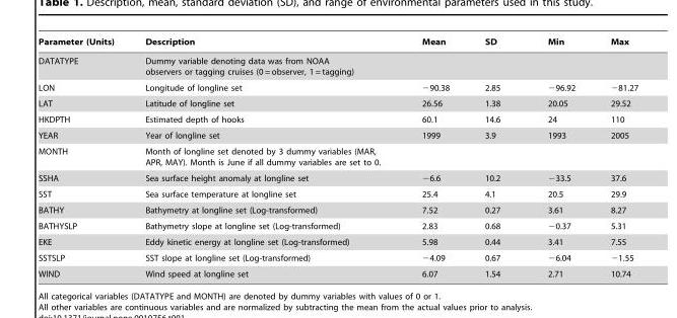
<table><thead><tr><td>Parameter (Units)</td><td>Description</td><td>Mean</td><td>SD</td><td>Min</td><td>Max</td></tr></thead><tbody><tr><td>DATATYPE</td><td>Dummy variable denoting data was from NOAA observers or tagging cruises (0 = observer, 1 = tagging)</td><td></td><td></td><td></td><td></td></tr><tr><td>LON</td><td>Longitude of longline set</td><td>−90.38</td><td>2.85</td><td>−96.92</td><td>−81.27</td></tr><tr><td>LAT</td><td>Latitude of longline set</td><td>26.56</td><td>1.38</td><td>20.05</td><td>29.52</td></tr><tr><td>HKDPTH</td><td>Estimated depth of hooks</td><td>60.1</td><td>14.6</td><td>24</td><td>110</td></tr><tr><td>YEAR</td><td>Year of longline set</td><td>1999</td><td>3.9</td><td>1993</td><td>2005</td></tr><tr><td>MONTH</td><td>Month of longline set denoted by 3 dummy variables (MAR, APR, MAY). Month is June if all dummy variables are set to 0.</td><td></td><td></td><td></td><td></td></tr><tr><td>SSHA</td><td>Sea surface height anomaly at longline set</td><td>−6.6</td><td>10.2</td><td>−33.5</td><td>37.6</td></tr><tr><td>SST</td><td>Sea surface temperature at longline set</td><td>25.4</td><td>4.1</td><td>20.5</td><td>29.9</td></tr><tr><td>BATHY</td><td>Bathymetry at longline set (Log-transformed)</td><td>7.52</td><td>0.27</td><td>3.61</td><td>8.27</td></tr><tr><td>BATHYSLP</td><td>Bathymetry slope at longline set (Log-transformed)</td><td>2.83</td><td>0.68</td><td>−0.37</td><td>5.31</td></tr><tr><td>EKE</td><td>Eddy kinetic energy at longline set (Log-transformed)</td><td>5.98</td><td>0.44</td><td>3.41</td><td>7.55</td></tr><tr><td>SSTSLP</td><td>SST slope at longline set (Log-transformed)</td><td>−4.09</td><td>0.67</td><td>−6.04</td><td>−1.55</td></tr><tr><td>WIND</td><td>Wind speed at longline set</td><td>6.07</td><td>1.54</td><td>2.71</td><td>10.74</td></tr></tbody></table>